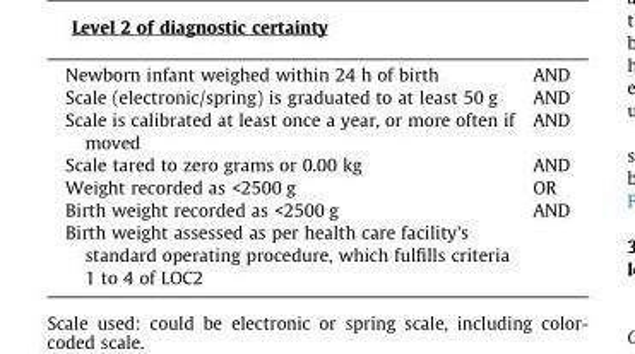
<table><tbody><tr><td>Newborn infant weighed within 24 h of birth</td><td>AND</td></tr><tr><td>Scale (electronic/spring) is graduated to at least 50 g</td><td>AND</td></tr><tr><td>Scale is calibrated at least once a year, or more often if moved</td><td>AND</td></tr><tr><td>Scale tared to zero grams or 0.00 kg</td><td>AND</td></tr><tr><td>Weight recorded as &lt;2500 g</td><td>OR</td></tr><tr><td>Birth weight recorded as &lt;2500 g</td><td>AND</td></tr><tr><td>Birth weight assessed as per health care facility’s standard operating procedure, which fulfills criteria 1 to 4 of LOC2</td><td></td></tr></tbody></table>